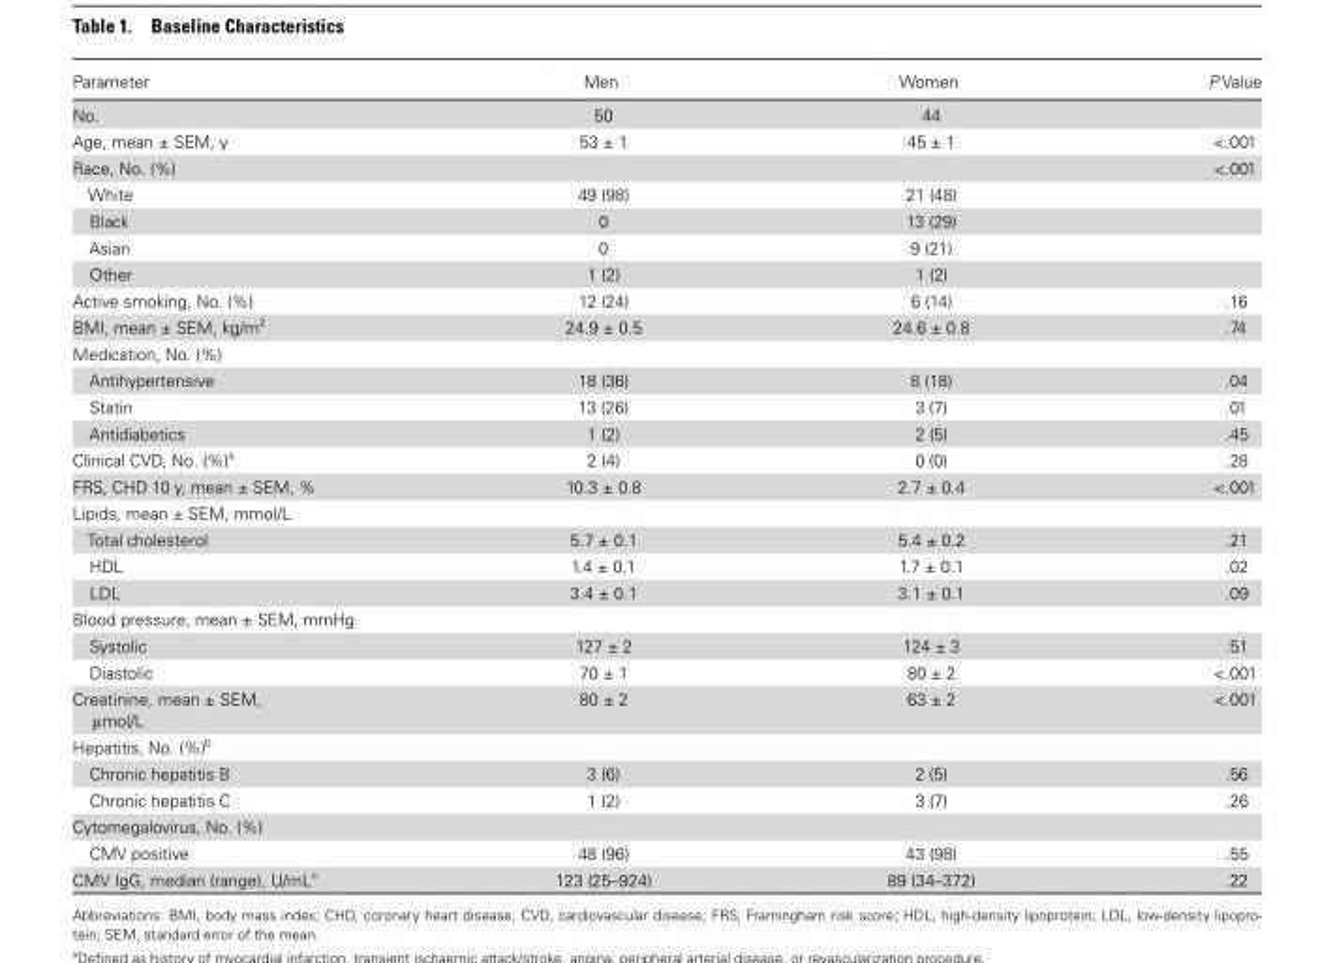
<table><thead><tr><td>Parameter</td><td>Men</td><td>Women</td><td>P Value</td></tr></thead><tbody><tr><td>No.</td><td>50</td><td>44</td><td></td></tr><tr><td>Age, mean ± SEM, y</td><td>53 ± 1</td><td>45 ± 1</td><td>&lt;.001</td></tr><tr><td>Race, No. (%)</td><td></td><td></td><td>&lt;.001</td></tr><tr><td>White</td><td>49 (98)</td><td>21 (48)</td><td></td></tr><tr><td>Black</td><td>0</td><td>13 (29)</td><td></td></tr><tr><td>Asian</td><td>0</td><td>9 (21)</td><td></td></tr><tr><td>Other</td><td>1 (2)</td><td>1 (2)</td><td></td></tr><tr><td>Active smoking, No. (%)</td><td>12 (24)</td><td>6 (14)</td><td>.16</td></tr><tr><td>BMI, mean ± SEM, kg/m<sup>2</sup></td><td>24.9 ± 0.5</td><td>24.6 ± 0.8</td><td>.74</td></tr><tr><td colspan="4">Medication, No. (%)</td></tr><tr><td>Antihypertensive</td><td>18 (36)</td><td>8 (18)</td><td>.04</td></tr><tr><td>Statin</td><td>13 (26)</td><td>3 (7)</td><td>.01</td></tr><tr><td>Antidiabetics</td><td>1 (2)</td><td>2 (5)</td><td>.45</td></tr><tr><td>Clinical CVD, No. (%)<sup>a</sup></td><td>2 (4)</td><td>0 (0)</td><td>.28</td></tr><tr><td>FRS, CHD 10 y, mean ± SEM, %</td><td>10.3 ± 0.8</td><td>2.7 ± 0.4</td><td>&lt;.001</td></tr><tr><td colspan="4">Lipids, mean ± SEM, mmol/L</td></tr><tr><td>Total cholesterol</td><td>5.7 ± 0.1</td><td>5.4 ± 0.2</td><td>.21</td></tr><tr><td>HDL</td><td>1.4 ± 0.1</td><td>1.7 ± 0.1</td><td>.02</td></tr><tr><td>LDL</td><td>3.4 ± 0.1</td><td>3.1 ± 0.1</td><td>.09</td></tr><tr><td colspan="4">Blood pressure, mean ± SEM, mmHg</td></tr><tr><td>Systolic</td><td>127 ± 2</td><td>124 ± 3</td><td>.51</td></tr><tr><td>Diastolic</td><td>70 ± 1</td><td>80 ± 2</td><td>&lt;.001</td></tr><tr><td>Creatinine, mean ± SEM, μmol/L</td><td>80 ± 2</td><td>63 ± 2</td><td>&lt;.001</td></tr><tr><td colspan="4">Hepatitis, No. (%)<sup>b</sup></td></tr><tr><td>Chronic hepatitis B</td><td>3 (6)</td><td>2 (5)</td><td>.56</td></tr><tr><td>Chronic hepatitis C</td><td>1 (2)</td><td>3 (7)</td><td>.26</td></tr><tr><td colspan="4">Cytomegalovirus, No. (%)</td></tr><tr><td>CMV positive</td><td>48 (96)</td><td>43 (98)</td><td>.55</td></tr><tr><td>CMV IgG, median (range), U/mL<sup>c</sup></td><td>123 (25–924)</td><td>89 (34–372)</td><td>.22</td></tr></tbody></table>